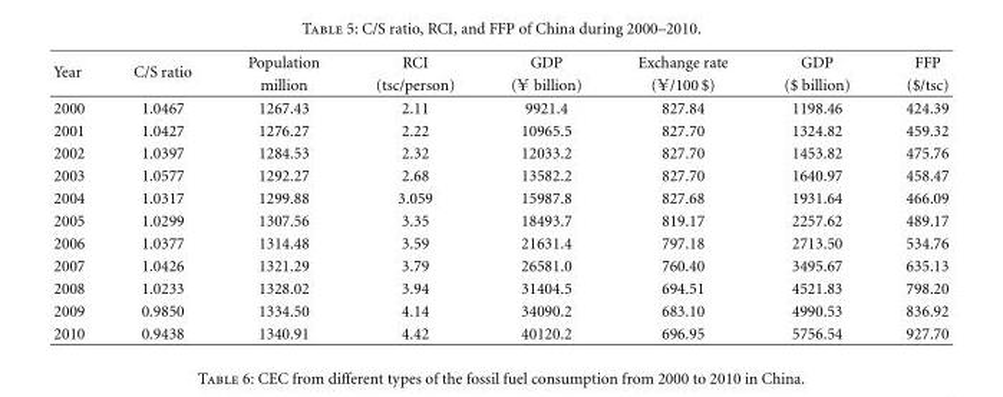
<table><thead><tr><td rowspan="2">Year</td><td rowspan="2">C/S ratio</td><td rowspan="2">Population million</td><td rowspan="2">RCI (tsc/person)</td><td rowspan="2">GDP (¥ billion)</td><td rowspan="2">Exchange rate (¥/100 $)</td><td rowspan="2">GDP ($ billion)</td><td rowspan="2">FFP ($/tsc)</td></tr><tr></tr></thead><tbody><tr><td>2000</td><td>1.0467</td><td>1267.43</td><td>2.11</td><td>9921.4</td><td>827.84</td><td>1198.46</td><td>424.39</td></tr><tr><td>2001</td><td>1.0427</td><td>1276.27</td><td>2.22</td><td>10965.5</td><td>827.70</td><td>1324.82</td><td>459.32</td></tr><tr><td>2002</td><td>1.0397</td><td>1284.53</td><td>2.32</td><td>12033.2</td><td>827.70</td><td>1453.82</td><td>475.76</td></tr><tr><td>2003</td><td>1.0577</td><td>1292.27</td><td>2.68</td><td>13582.2</td><td>827.70</td><td>1640.97</td><td>458.47</td></tr><tr><td>2004</td><td>1.0317</td><td>1299.88</td><td>3.059</td><td>15987.8</td><td>827.68</td><td>1931.64</td><td>466.09</td></tr><tr><td>2005</td><td>1.0299</td><td>1307.56</td><td>3.35</td><td>18493.7</td><td>819.17</td><td>2257.62</td><td>489.17</td></tr><tr><td>2006</td><td>1.0377</td><td>1314.48</td><td>3.59</td><td>21631.4</td><td>797.18</td><td>2713.50</td><td>534.76</td></tr><tr><td>2007</td><td>1.0426</td><td>1321.29</td><td>3.79</td><td>26581.0</td><td>760.40</td><td>3495.67</td><td>635.13</td></tr><tr><td>2008</td><td>1.0233</td><td>1328.02</td><td>3.94</td><td>31404.5</td><td>694.51</td><td>4521.83</td><td>798.20</td></tr><tr><td>2009</td><td>0.9850</td><td>1334.50</td><td>4.14</td><td>34090.2</td><td>683.10</td><td>4990.53</td><td>836.92</td></tr><tr><td>2010</td><td>0.9438</td><td>1340.91</td><td>4.42</td><td>40120.2</td><td>696.95</td><td>5756.54</td><td>927.70</td></tr></tbody></table>